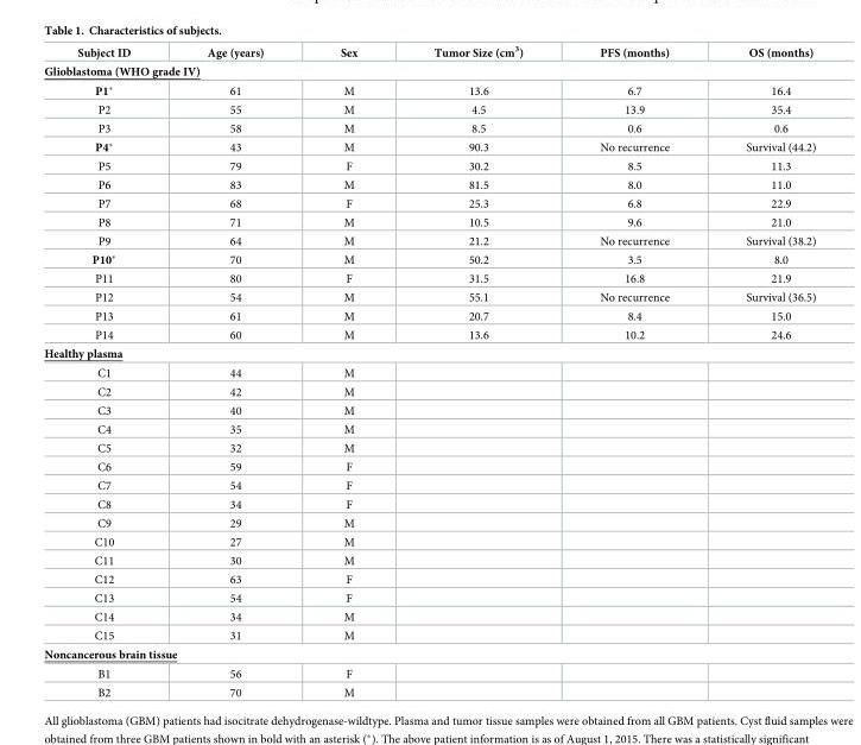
<table><thead><tr><td>Subject ID</td><td>Age (years)</td><td>Sex</td><td>Tumor Size (cm<sup>3</sup>)</td><td>PFS (months)</td><td>OS (months)</td></tr></thead><tbody><tr><td colspan="6">Glioblastoma (WHO grade IV)</td></tr><tr><td>P1*</td><td>61</td><td>M</td><td>13.6</td><td>6.7</td><td>16.4</td></tr><tr><td>P2</td><td>55</td><td>M</td><td>4.5</td><td>13.9</td><td>35.4</td></tr><tr><td>P3</td><td>58</td><td>M</td><td>8.5</td><td>0.6</td><td>0.6</td></tr><tr><td>P4*</td><td>43</td><td>M</td><td>90.3</td><td>No recurrence</td><td>Survival (44.2)</td></tr><tr><td>P5</td><td>79</td><td>F</td><td>30.2</td><td>8.5</td><td>11.3</td></tr><tr><td>P6</td><td>83</td><td>M</td><td>81.5</td><td>8.0</td><td>11.0</td></tr><tr><td>P7</td><td>68</td><td>F</td><td>25.3</td><td>6.8</td><td>22.9</td></tr><tr><td>P8</td><td>71</td><td>M</td><td>10.5</td><td>9.6</td><td>21.0</td></tr><tr><td>P9</td><td>64</td><td>M</td><td>21.2</td><td>No recurrence</td><td>Survival (38.2)</td></tr><tr><td>P10*</td><td>70</td><td>M</td><td>50.2</td><td>3.5</td><td>8.0</td></tr><tr><td>P11</td><td>80</td><td>F</td><td>31.5</td><td>16.8</td><td>21.9</td></tr><tr><td>P12</td><td>54</td><td>M</td><td>55.1</td><td>No recurrence</td><td>Survival (36.5)</td></tr><tr><td>P13</td><td>61</td><td>M</td><td>20.7</td><td>8.4</td><td>15.0</td></tr><tr><td>P14</td><td>60</td><td>M</td><td>13.6</td><td>10.2</td><td>24.6</td></tr><tr><td colspan="6">Healthy plasma</td></tr><tr><td>C1</td><td>44</td><td>M</td><td></td><td></td><td></td></tr><tr><td>C2</td><td>42</td><td>M</td><td></td><td></td><td></td></tr><tr><td>C3</td><td>40</td><td>M</td><td></td><td></td><td></td></tr><tr><td>C4</td><td>35</td><td>M</td><td></td><td></td><td></td></tr><tr><td>C5</td><td>32</td><td>M</td><td></td><td></td><td></td></tr><tr><td>C6</td><td>59</td><td>F</td><td></td><td></td><td></td></tr><tr><td>C7</td><td>54</td><td>F</td><td></td><td></td><td></td></tr><tr><td>C8</td><td>34</td><td>F</td><td></td><td></td><td></td></tr><tr><td>C9</td><td>29</td><td>M</td><td></td><td></td><td></td></tr><tr><td>C10</td><td>27</td><td>M</td><td></td><td></td><td></td></tr><tr><td>C11</td><td>30</td><td>M</td><td></td><td></td><td></td></tr><tr><td>C12</td><td>63</td><td>F</td><td></td><td></td><td></td></tr><tr><td>C13</td><td>54</td><td>F</td><td></td><td></td><td></td></tr><tr><td>C14</td><td>34</td><td>M</td><td></td><td></td><td></td></tr><tr><td>C15</td><td>31</td><td>M</td><td></td><td></td><td></td></tr><tr><td colspan="6">Noncancerous brain tissue</td></tr><tr><td>B1</td><td>56</td><td>F</td><td></td><td></td><td></td></tr><tr><td>B2</td><td>70</td><td>M</td><td></td><td></td><td></td></tr></tbody></table>